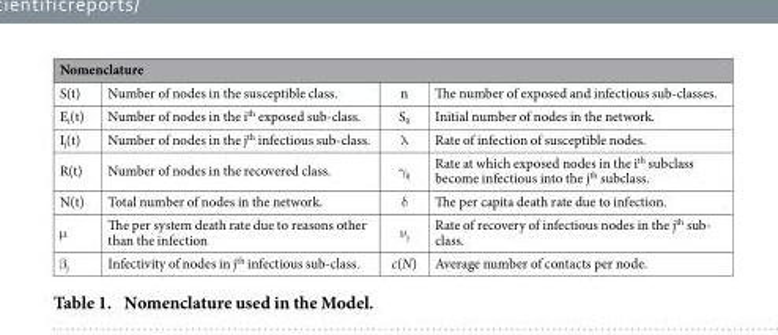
<table><thead><tr><td colspan="4">Nomenclature</td></tr><tr><td>S(t)</td><td>Number of nodes in the susceptible class.</td><td>n</td><td>The number of exposed and infectious sub-classes.</td></tr></thead><tbody><tr><td>E<sub>i</sub>(t)</td><td>Number of nodes in the i<sup>th</sup> exposed sub-class.</td><td>S<sub>0</sub></td><td>Initial number of nodes in the network.</td></tr><tr><td>I<sub>j</sub>(t)</td><td>Number of nodes in the j<sup>th</sup> infectious sub-class.</td><td>λ</td><td>Rate of infection of susceptible nodes.</td></tr><tr><td>R(t)</td><td>Number of nodes in the recovered class.</td><td>γ <sub>ij</sub></td><td>Rate at which exposed nodes in the i<sup>th</sup> subclass become infectious into the j<sup>th</sup> subclass.</td></tr><tr><td>N(t)</td><td>Total number of nodes in the network.</td><td>δ</td><td>The per capita death rate due to infection.</td></tr><tr><td>μ</td><td>The per system death rate due to reasons other than the infection</td><td>ν <sub>j</sub></td><td>Rate of recovery of infectious nodes in the j<sup>th</sup> sub- class.</td></tr><tr><td>β <sub>j</sub></td><td>Infectivity of nodes in j<sup>th</sup> infectious sub-class.</td><td>c(N)</td><td>Average number of contacts per node.</td></tr></tbody></table>